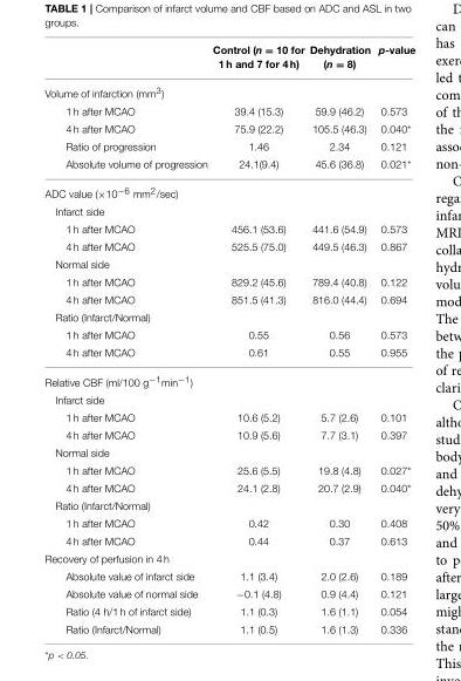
<table><thead><tr><td></td><td>Control (n = 10 for 1 h and 7 for 4 h)</td><td>Dehydration (n = 8)</td><td>p-value</td></tr></thead><tbody><tr><td colspan="4">Volume of infarction (mm<sup>3</sup>)</td></tr><tr><td>1 h after MCAO</td><td>39.4 (15.3)</td><td>59.9 (46.2)</td><td>0.573</td></tr><tr><td>4 h after MCAO</td><td>75.9 (22.2)</td><td>105.5 (46.3)</td><td>0.040*</td></tr><tr><td>Ratio of progression</td><td>1.46</td><td>2.34</td><td>0.121</td></tr><tr><td>Absolute volume of progression</td><td>24.1(9.4)</td><td>45.6 (36.8)</td><td>0.021*</td></tr><tr><td colspan="4">ADC value (×10<sup>−6</sup> mm<sup>2</sup>/sec)</td></tr><tr><td colspan="4">Infarct side</td></tr><tr><td>1 h after MCAO</td><td>456.1 (53.6)</td><td>441.6 (54.9)</td><td>0.573</td></tr><tr><td>4 h after MCAO</td><td>525.5 (75.0)</td><td>449.5 (46.3)</td><td>0.867</td></tr><tr><td colspan="4">Normal side</td></tr><tr><td>1 h after MCAO</td><td>829.2 (45.6)</td><td>789.4 (40.8)</td><td>0.122</td></tr><tr><td>4 h after MCAO</td><td>851.5 (41.3)</td><td>816.0 (44.4)</td><td>0.694</td></tr><tr><td colspan="4">Ratio (Infarct/Normal)</td></tr><tr><td>1 h after MCAO</td><td>0.55</td><td>0.56</td><td>0.573</td></tr><tr><td>4 h after MCAO</td><td>0.61</td><td>0.55</td><td>0.955</td></tr><tr><td colspan="4">Relative CBF (ml/100 g<sup>−1</sup>min<sup>−1</sup>)</td></tr><tr><td colspan="4">Infarct side</td></tr><tr><td>1 h after MCAO</td><td>10.6 (5.2)</td><td>5.7 (2.6)</td><td>0.101</td></tr><tr><td>4 h after MCAO</td><td>10.9 (5.6)</td><td>7.7 (3.1)</td><td>0.397</td></tr><tr><td colspan="4">Normal side</td></tr><tr><td>1 h after MCAO</td><td>25.6 (5.5)</td><td>19.8 (4.8)</td><td>0.027*</td></tr><tr><td>4 h after MCAO</td><td>24.1 (2.8)</td><td>20.7 (2.9)</td><td>0.040*</td></tr><tr><td colspan="4">Ratio (Infarct/Normal)</td></tr><tr><td>1 h after MCAO</td><td>0.42</td><td>0.30</td><td>0.408</td></tr><tr><td>4 h after MCAO</td><td>0.44</td><td>0.37</td><td>0.613</td></tr><tr><td colspan="4">Recovery of perfusion in 4 h</td></tr><tr><td>Absolute value of infarct side</td><td>1.1 (3.4)</td><td>2.0 (2.6)</td><td>0.189</td></tr><tr><td>Absolute value of normal side</td><td>−0.1 (4.8)</td><td>0.9 (4.4)</td><td>0.121</td></tr><tr><td>Ratio (4 h/1 h of infarct side)</td><td>1.1 (0.3)</td><td>1.6 (1.1)</td><td>0.054</td></tr><tr><td>Ratio (Infarct/Normal)</td><td>1.1 (0.5)</td><td>1.6 (1.3)</td><td>0.336</td></tr></tbody></table>